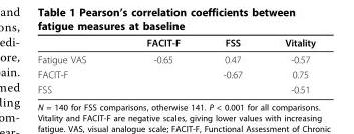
<table><thead><tr><td></td><td>FACIT-F</td><td>FSS</td><td>Vitality</td></tr></thead><tbody><tr><td>Fatigue VAS</td><td>-0.65</td><td>0.47</td><td>-0.57</td></tr><tr><td>FACIT-F</td><td></td><td>-0.67</td><td>0.75</td></tr><tr><td>FSS</td><td></td><td></td><td>-0.51</td></tr></tbody></table>